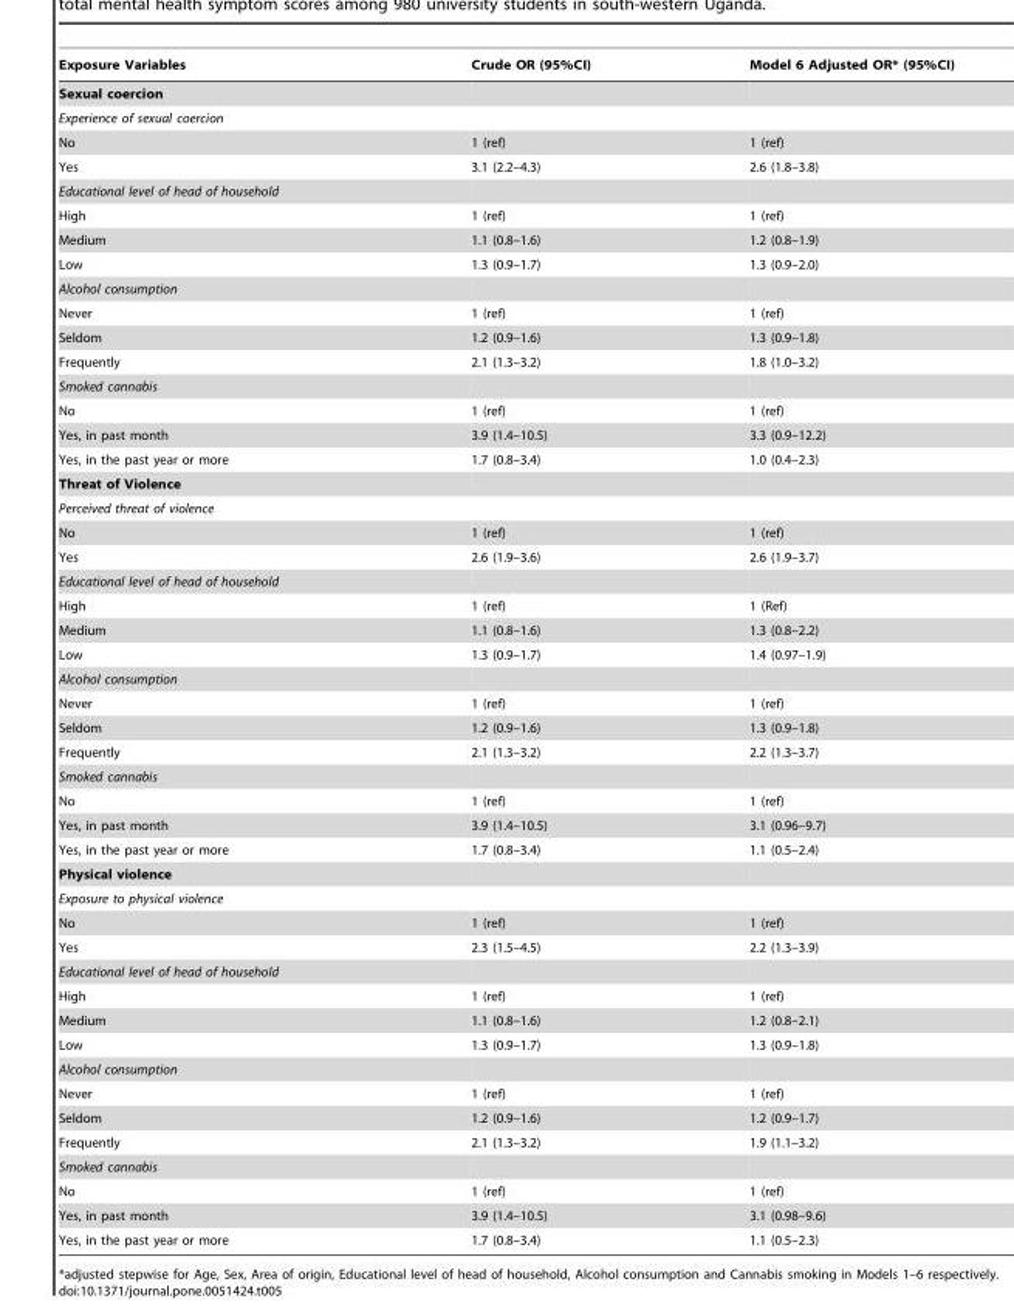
<table><thead><tr><td>Exposure Variables</td><td>Crude OR (95%CI)</td><td>Model 6 Adjusted OR* (95%CI)</td></tr></thead><tbody><tr><td colspan="3">Sexual coercion</td></tr><tr><td colspan="3">Experience of sexual coercion</td></tr><tr><td>No</td><td>1 (ref)</td><td>1 (ref)</td></tr><tr><td>Yes</td><td>3.1 (2.2–4.3)</td><td>2.6 (1.8–3.8)</td></tr><tr><td colspan="3">Educational level of head of household</td></tr><tr><td>High</td><td>1 (ref)</td><td>1 (ref)</td></tr><tr><td>Medium</td><td>1.1 (0.8–1.6)</td><td>1.2 (0.8–1.9)</td></tr><tr><td>Low</td><td>1.3 (0.9–1.7)</td><td>1.3 (0.9–2.0)</td></tr><tr><td colspan="3">Alcohol consumption</td></tr><tr><td>Never</td><td>1 (ref)</td><td>1 (ref)</td></tr><tr><td>Seldom</td><td>1.2 (0.9–1.6)</td><td>1.3 (0.9–1.8)</td></tr><tr><td>Frequently</td><td>2.1 (1.3–3.2)</td><td>1.8 (1.0–3.2)</td></tr><tr><td colspan="3">Smoked cannabis</td></tr><tr><td>No</td><td>1 (ref)</td><td>1 (ref)</td></tr><tr><td>Yes, in past month</td><td>3.9 (1.4–10.5)</td><td>3.3 (0.9–12.2)</td></tr><tr><td>Yes, in the past year or more</td><td>1.7 (0.8–3.4)</td><td>1.0 (0.4–2.3)</td></tr><tr><td colspan="3">Threat of Violence</td></tr><tr><td colspan="3">Perceived threat of violence</td></tr><tr><td>No</td><td>1 (ref)</td><td>1 (ref)</td></tr><tr><td>Yes</td><td>2.6 (1.9–3.6)</td><td>2.6 (1.9–3.7)</td></tr><tr><td colspan="3">Educational level of head of household</td></tr><tr><td>High</td><td>1 (ref)</td><td>1 (Ref)</td></tr><tr><td>Medium</td><td>1.1 (0.8–1.6)</td><td>1.3 (0.8–2.2)</td></tr><tr><td>Low</td><td>1.3 (0.9–1.7)</td><td>1.4 (0.97–1.9)</td></tr><tr><td colspan="3">Alcohol consumption</td></tr><tr><td>Never</td><td>1 (ref)</td><td>1 (ref)</td></tr><tr><td>Seldom</td><td>1.2 (0.9–1.6)</td><td>1.3 (0.9–1.8)</td></tr><tr><td>Frequently</td><td>2.1 (1.3–3.2)</td><td>2.2 (1.3–3.7)</td></tr><tr><td colspan="3">Smoked cannabis</td></tr><tr><td>No</td><td>1 (ref)</td><td>1 (ref)</td></tr><tr><td>Yes, in past month</td><td>3.9 (1.4–10.5)</td><td>3.1 (0.96–9.7)</td></tr><tr><td>Yes, in the past year or more</td><td>1.7 (0.8–3.4)</td><td>1.1 (0.5–2.4)</td></tr><tr><td colspan="3">Physical violence</td></tr><tr><td colspan="3">Exposure to physical violence</td></tr><tr><td>No</td><td>1 (ref)</td><td>1 (ref)</td></tr><tr><td>Yes</td><td>2.3 (1.5–4.5)</td><td>2.2 (1.3–3.9)</td></tr><tr><td colspan="3">Educational level of head of household</td></tr><tr><td>High</td><td>1 (ref)</td><td>1 (ref)</td></tr><tr><td>Medium</td><td>1.1 (0.8–1.6)</td><td>1.2 (0.8–2.1)</td></tr><tr><td>Low</td><td>1.3 (0.9–1.7)</td><td>1.3 (0.9–1.8)</td></tr><tr><td colspan="3">Alcohol consumption</td></tr><tr><td>Never</td><td>1 (ref)</td><td>1 (ref)</td></tr><tr><td>Seldom</td><td>1.2 (0.9–1.6)</td><td>1.2 (0.9–1.7)</td></tr><tr><td>Frequently</td><td>2.1 (1.3–3.2)</td><td>1.9 (1.1–3.2)</td></tr><tr><td colspan="3">Smoked cannabis</td></tr><tr><td>No</td><td>1 (ref)</td><td>1 (ref)</td></tr><tr><td>Yes, in past month</td><td>3.9 (1.4–10.5)</td><td>3.1 (0.98–9.6)</td></tr><tr><td>Yes, in the past year or more</td><td>1.7 (0.8–3.4)</td><td>1.1 (0.5–2.3)</td></tr></tbody></table>